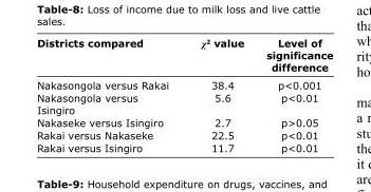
<table><thead><tr><td>Districts compared</td><td>χ<sup>2</sup> value</td><td>Level of significance difference</td></tr></thead><tbody><tr><td>Nakasongola versus Rakai</td><td>38.4</td><td>p&lt;0.001</td></tr><tr><td>Nakasongola versus Isingiro</td><td>5.6</td><td>p&lt;0.01</td></tr><tr><td>Nakaseke versus Isingiro</td><td>2.7</td><td>p&gt;0.05</td></tr><tr><td>Rakai versus Nakaseke</td><td>22.5</td><td>p&lt;0.01</td></tr><tr><td>Rakai versus Isingiro</td><td>11.7</td><td>p&lt;0.01</td></tr></tbody></table>